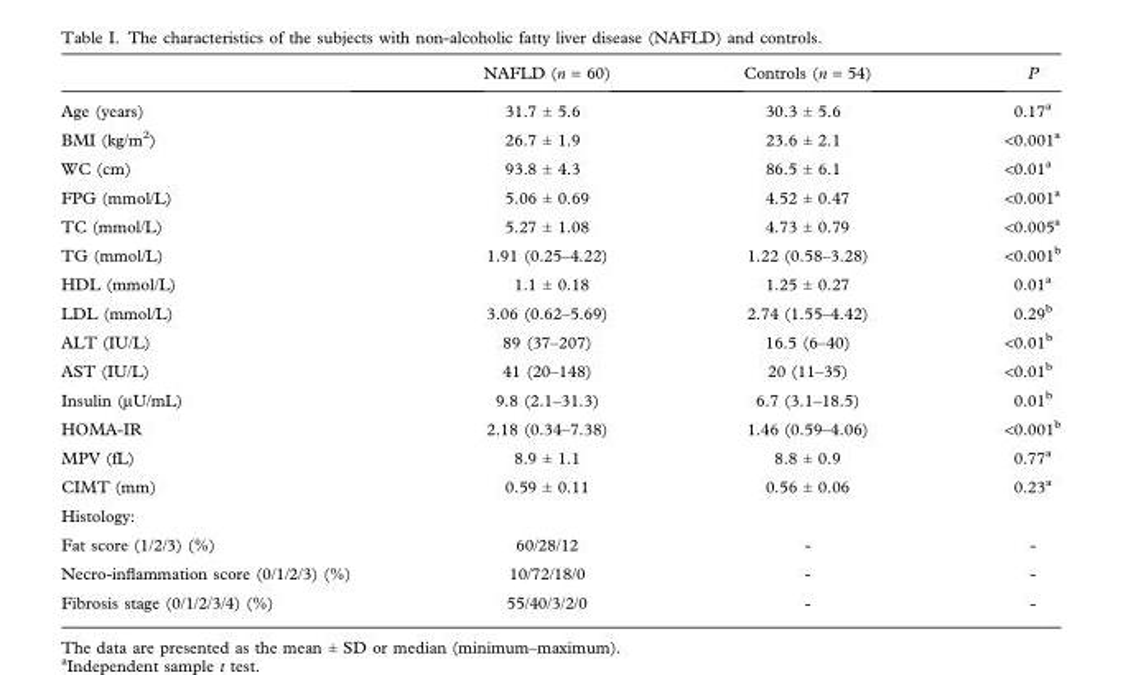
<table><thead><tr><td></td><td>NAFLD (n = 60)</td><td>Controls (n = 54)</td><td>P</td></tr></thead><tbody><tr><td>Age (years)</td><td>31.7 ± 5.6</td><td>30.3 ± 5.6</td><td>0.17<sup>a</sup></td></tr><tr><td>BMI (kg/m<sup>2</sup>)</td><td>26.7 ± 1.9</td><td>23.6 ± 2.1</td><td>&lt;0.001<sup>a</sup></td></tr><tr><td>WC (cm)</td><td>93.8 ± 4.3</td><td>86.5 ± 6.1</td><td>&lt;0.01<sup>a</sup></td></tr><tr><td>FPG (mmol/L)</td><td>5.06 ± 0.69</td><td>4.52 ± 0.47</td><td>&lt;0.001<sup>a</sup></td></tr><tr><td>TC (mmol/L)</td><td>5.27 ± 1.08</td><td>4.73 ± 0.79</td><td>&lt;0.005<sup>a</sup></td></tr><tr><td>TG (mmol/L)</td><td>1.91 (0.25–4.22)</td><td>1.22 (0.58–3.28)</td><td>&lt;0.001<sup>b</sup></td></tr><tr><td>HDL (mmol/L)</td><td>1.1 ± 0.18</td><td>1.25 ± 0.27</td><td>0.01<sup>a</sup></td></tr><tr><td>LDL (mmol/L)</td><td>3.06 (0.62–5.69)</td><td>2.74 (1.55–4.42)</td><td>0.29<sup>b</sup></td></tr><tr><td>ALT (IU/L)</td><td>89 (37–207)</td><td>16.5 (6–40)</td><td>&lt;0.01<sup>b</sup></td></tr><tr><td>AST (IU/L)</td><td>41 (20–148)</td><td>20 (11–35)</td><td>&lt;0.01<sup>b</sup></td></tr><tr><td>Insulin (μU/mL)</td><td>9.8 (2.1–31.3)</td><td>6.7 (3.1–18.5)</td><td>0.01<sup>b</sup></td></tr><tr><td>HOMA-IR</td><td>2.18 (0.34–7.38)</td><td>1.46 (0.59–4.06)</td><td>&lt;0.001<sup>b</sup></td></tr><tr><td>MPV (fL)</td><td>8.9 ± 1.1</td><td>8.8 ± 0.9</td><td>0.77<sup>a</sup></td></tr><tr><td>CIMT (mm)</td><td>0.59 ± 0.11</td><td>0.56 ± 0.06</td><td>0.23<sup>a</sup></td></tr><tr><td colspan="4">Histology:</td></tr><tr><td>Fat score (1/2/3) (%)</td><td>60/28/12</td><td>-</td><td>-</td></tr><tr><td>Necro-inflammation score (0/1/2/3) (%)</td><td>10/72/18/0</td><td>-</td><td>-</td></tr><tr><td>Fibrosis stage (0/1/2/3/4) (%)</td><td>55/40/3/2/0</td><td>-</td><td>-</td></tr></tbody></table>